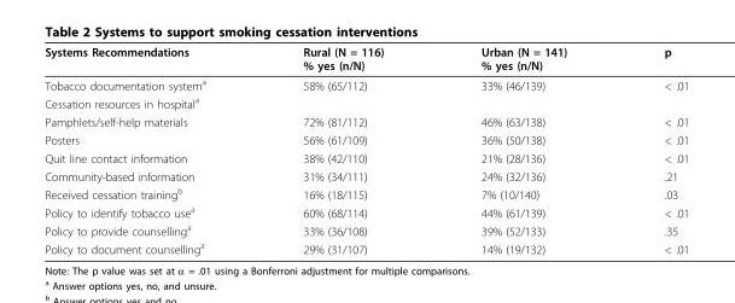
<table><thead><tr><td>Systems Recommendations</td><td>Rural (N = 116) % yes (n/N)</td><td>Urban (N = 141) % yes (n/N)</td><td>p</td></tr></thead><tbody><tr><td>Tobacco documentation system<sup>a</sup></td><td>58% (65/112)</td><td>33% (46/139)</td><td>&lt; .01</td></tr><tr><td colspan="4">Cessation resources in hospital<sup>a</sup></td></tr><tr><td>Pamphlets/self-help materials</td><td>72% (81/112)</td><td>46% (63/138)</td><td>&lt; .01</td></tr><tr><td>Posters</td><td>56% (61/109)</td><td>36% (50/138)</td><td>&lt; .01</td></tr><tr><td>Quit line contact information</td><td>38% (42/110)</td><td>21% (28/136)</td><td>&lt; .01</td></tr><tr><td>Community-based information</td><td>31% (34/111)</td><td>24% (32/136)</td><td>.21</td></tr><tr><td>Received cessation training<sup>b</sup></td><td>16% (18/115)</td><td>7% (10/140)</td><td>.03</td></tr><tr><td>Policy to identify tobacco use<sup>a</sup></td><td>60% (68/114)</td><td>44% (61/139)</td><td>&lt; .01</td></tr><tr><td>Policy to provide counselling<sup>a</sup></td><td>33% (36/108)</td><td>39% (52/133)</td><td>.35</td></tr><tr><td>Policy to document counselling<sup>a</sup></td><td>29% (31/107)</td><td>14% (19/132)</td><td>&lt; .01</td></tr></tbody></table>